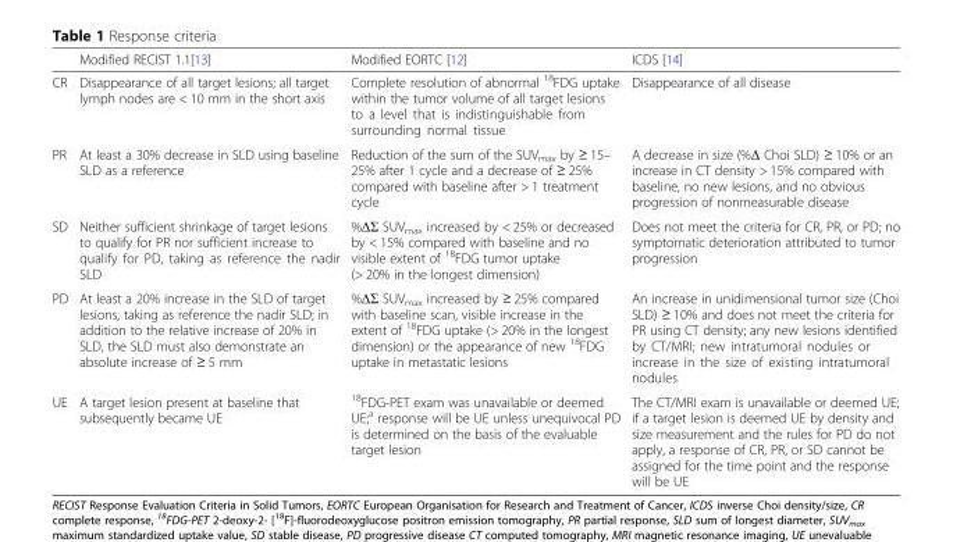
<table><thead><tr><td></td><td>Modified RECIST 1.1[13]</td><td>Modified EORTC [12]</td><td>ICDS [14]</td></tr></thead><tbody><tr><td>CR</td><td>Disappearance of all target lesions; all target lymph nodes are &lt; 10 mm in the short axis</td><td>Complete resolution of abnormal <sup>18</sup>FDG uptake within the tumor volume of all target lesions to a level that is indistinguishable from surrounding normal tissue</td><td>Disappearance of all disease</td></tr><tr><td>PR</td><td>At least a 30% decrease in SLD using baseline SLD as a reference</td><td>Reduction of the sum of the SUV<sub>max</sub> by ≥ 15– 25% after 1 cycle and a decrease of ≥ 25% compared with baseline after &gt; 1 treatment cycle</td><td>A decrease in size (%Δ Choi SLD) ≥ 10% or an increase in CT density &gt; 15% compared with baseline, no new lesions, and no obvious progression of nonmeasurable disease</td></tr><tr><td>SD</td><td>Neither sufficient shrinkage of target lesions to qualify for PR nor sufficient increase to qualify for PD, taking as reference the nadir SLD</td><td>%ΔΣ SUV<sub>max</sub> increased by &lt; 25% or decreased by &lt; 15% compared with baseline and no visible extent of <sup>18</sup>FDG tumor uptake (&gt; 20% in the longest dimension)</td><td>Does not meet the criteria for CR, PR, or PD; no symptomatic deterioration attributed to tumor progression</td></tr><tr><td>PD</td><td>At least a 20% increase in the SLD of target lesions, taking as reference the nadir SLD; in addition to the relative increase of 20% in SLD, the SLD must also demonstrate an absolute increase of ≥ 5 mm</td><td>%ΔΣ SUV<sub>max</sub> increased by ≥ 25% compared with baseline scan, visible increase in the extent of <sup>18</sup>FDG uptake (&gt; 20% in the longest dimension) or the appearance of new <sup>18</sup>FDG uptake in metastatic lesions</td><td>An increase in unidimensional tumor size (Choi SLD) ≥ 10% and does not meet the criteria for PR using CT density; any new lesions identified by CT/MRI; new intratumoral nodules or increase in the size of existing intratumoral nodules</td></tr><tr><td>UE</td><td>A target lesion present at baseline that subsequently became UE</td><td><sup>18</sup>FDG-PET exam was unavailable or deemed UE;<sup>a</sup> response will be UE unless unequivocal PD is determined on the basis of the evaluable target lesion</td><td>The CT/MRI exam is unavailable or deemed UE; if a target lesion is deemed UE by density and size measurement and the rules for PD do not apply, a response of CR, PR, or SD cannot be assigned for the time point and the response will be UE</td></tr></tbody></table>